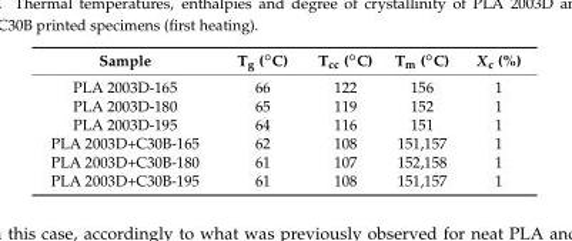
<table><thead><tr><td>Sample</td><td>Tg (◦C)</td><td>Tcc (◦C)</td><td>Tm (◦C)</td><td>X<sub>c</sub> (%)</td></tr></thead><tbody><tr><td>PLA 2003D-165</td><td>66</td><td>122</td><td>156</td><td>1</td></tr><tr><td>PLA 2003D-180</td><td>65</td><td>119</td><td>152</td><td>1</td></tr><tr><td>PLA 2003D-195</td><td>64</td><td>116</td><td>151</td><td>1</td></tr><tr><td>PLA 2003D+C30B-165</td><td>62</td><td>108</td><td>151,157</td><td>1</td></tr><tr><td>PLA 2003D+C30B-180</td><td>61</td><td>107</td><td>152,158</td><td>1</td></tr><tr><td>PLA 2003D+C30B-195</td><td>61</td><td>108</td><td>151,157</td><td>1</td></tr></tbody></table>